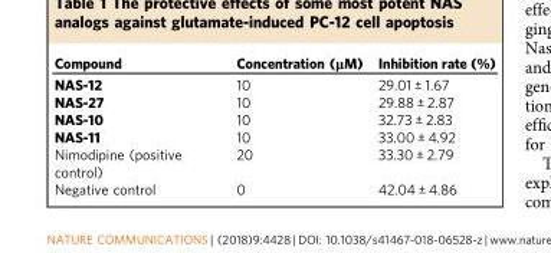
<table><thead><tr><td>Compound</td><td>Concentration (μM)</td><td>Inhibition rate (%)</td></tr></thead><tbody><tr><td>NAS-12</td><td>10</td><td>29.01 ± 1.67</td></tr><tr><td>NAS-27</td><td>10</td><td>29.88 ± 2.87</td></tr><tr><td>NAS-10</td><td>10</td><td>32.73 ± 2.83</td></tr><tr><td>NAS-11</td><td>10</td><td>33.00 ± 4.92</td></tr><tr><td>Nimodipine (positive control)</td><td>20</td><td>33.30 ± 2.79</td></tr><tr><td>Negative control</td><td>0</td><td>42.04 ± 4.86</td></tr></tbody></table>